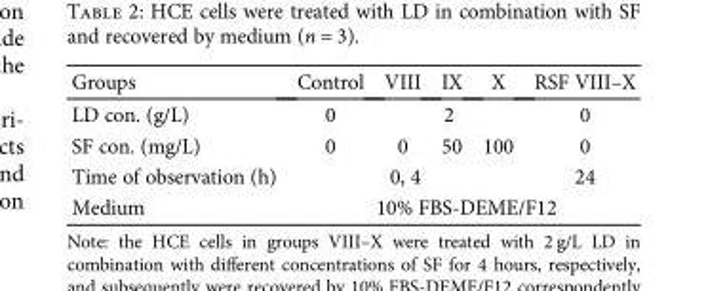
<table><thead><tr><td>Groups</td><td>Control</td><td>VIII</td><td>IX</td><td>X</td><td>RSF VIII–X</td></tr></thead><tbody><tr><td>LD con. (g/L)</td><td>0</td><td colspan="3">2</td><td>0</td></tr><tr><td>SF con. (mg/L)</td><td>0</td><td>0</td><td>50</td><td>100</td><td>0</td></tr><tr><td>Time of observation (h)</td><td colspan="4">0, 4</td><td>24</td></tr><tr><td>Medium</td><td colspan="5">10% FBS-DEME/F12</td></tr></tbody></table>